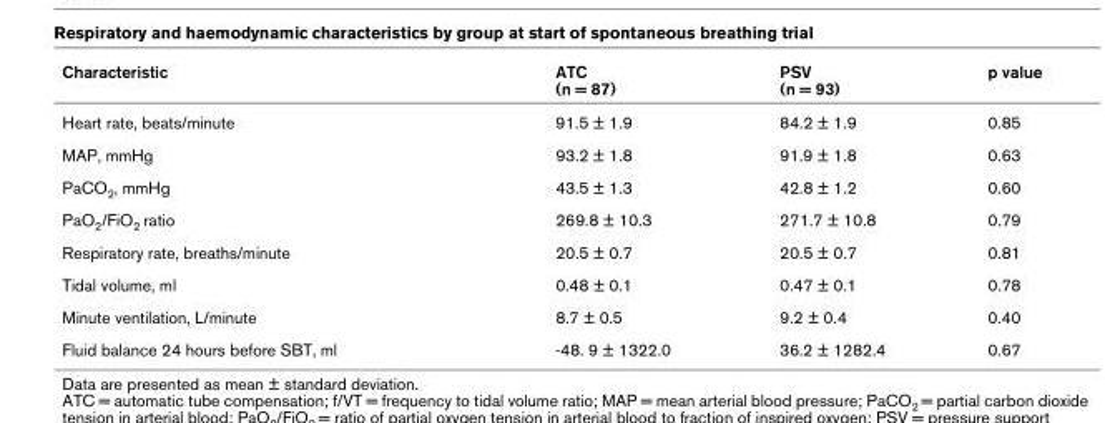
<table><thead><tr><td>Characteristic</td><td>ATC (n = 87)</td><td>PSV (n = 93)</td><td>p value</td></tr></thead><tbody><tr><td>Heart rate, beats/minute</td><td>91.5 ± 1.9</td><td>84.2 ± 1.9</td><td>0.85</td></tr><tr><td>MAP, mmHg</td><td>93.2 ± 1.8</td><td>91.9 ± 1.8</td><td>0.63</td></tr><tr><td>PaCO<sub>2</sub>, mmHg</td><td>43.5 ± 1.3</td><td>42.8 ± 1.2</td><td>0.60</td></tr><tr><td>PaO<sub>2</sub>/FiO<sub>2</sub> ratio</td><td>269.8 ± 10.3</td><td>271.7 ± 10.8</td><td>0.79</td></tr><tr><td>Respiratory rate, breaths/minute</td><td>20.5 ± 0.7</td><td>20.5 ± 0.7</td><td>0.81</td></tr><tr><td>Tidal volume, ml</td><td>0.48 ± 0.1</td><td>0.47 ± 0.1</td><td>0.78</td></tr><tr><td>Minute ventilation, L/minute</td><td>8.7 ± 0.5</td><td>9.2 ± 0.4</td><td>0.40</td></tr><tr><td>Fluid balance 24 hours before SBT, ml</td><td>-48. 9 ± 1322.0</td><td>36.2 ± 1282.4</td><td>0.67</td></tr></tbody></table>